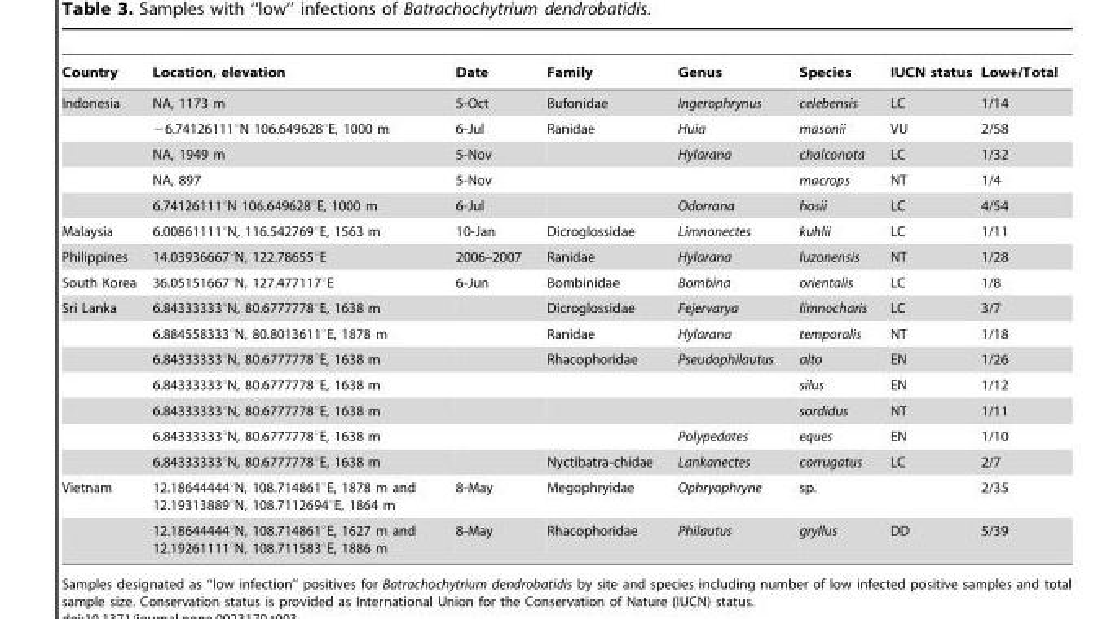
<table><thead><tr><td>Country</td><td>Location, elevation</td><td>Date</td><td>Family</td><td>Genus</td><td>Species</td><td>IUCN status</td><td>Low+/Total</td></tr></thead><tbody><tr><td rowspan="5">Indonesia</td><td>NA, 1173 m</td><td>5-Oct</td><td>Bufonidae</td><td>Ingerophrynus</td><td>celebensis</td><td>LC</td><td>1/14</td></tr><tr><td>−6.74126111°N 106.649628°E, 1000 m</td><td>6-Jul</td><td>Ranidae</td><td>Huia</td><td>masonii</td><td>VU</td><td>2/58</td></tr><tr><td>NA, 1949 m</td><td>5-Nov</td><td></td><td>Hylarana</td><td>chalconota</td><td>LC</td><td>1/32</td></tr><tr><td>NA, 897</td><td>5-Nov</td><td></td><td></td><td>macrops</td><td>NT</td><td>1/4</td></tr><tr><td>6.74126111°N 106.649628°E, 1000 m</td><td>6-Jul</td><td></td><td>Odorrana</td><td>hosii</td><td>LC</td><td>4/54</td></tr><tr><td>Malaysia</td><td>6.00861111°N, 116.542769°E, 1563 m</td><td>10-Jan</td><td>Dicroglossidae</td><td>Limnonectes</td><td>kuhlii</td><td>LC</td><td>1/11</td></tr><tr><td>Philippines</td><td>14.03936667°N, 122.78655°E</td><td>2006–2007</td><td>Ranidae</td><td>Hylarana</td><td>luzonensis</td><td>NT</td><td>1/28</td></tr><tr><td>South Korea</td><td>36.05151667°N, 127.477117°E</td><td>6-Jun</td><td>Bombinidae</td><td>Bombina</td><td>orientalis</td><td>LC</td><td>1/8</td></tr><tr><td rowspan="7">Sri Lanka</td><td>6.84333333°N, 80.6777778°E, 1638 m</td><td></td><td>Dicroglossidae</td><td>Fejervarya</td><td>limnocharis</td><td>LC</td><td>3/7</td></tr><tr><td>6.884558333°N, 80.8013611°E, 1878 m</td><td></td><td>Ranidae</td><td>Hylarana</td><td>temporalis</td><td>NT</td><td>1/18</td></tr><tr><td>6.84333333°N, 80.6777778°E, 1638 m</td><td></td><td>Rhacophoridae</td><td>Pseudophilautus</td><td>alto</td><td>EN</td><td>1/26</td></tr><tr><td>6.84333333°N, 80.6777778°E, 1638 m</td><td></td><td></td><td></td><td>silus</td><td>EN</td><td>1/12</td></tr><tr><td>6.84333333°N, 80.6777778°E, 1638 m</td><td></td><td></td><td></td><td>sordidus</td><td>NT</td><td>1/11</td></tr><tr><td>6.84333333°N, 80.6777778°E, 1638 m</td><td></td><td></td><td>Polypedates</td><td>eques</td><td>EN</td><td>1/10</td></tr><tr><td>6.84333333°N, 80.6777778°E, 1638 m</td><td></td><td>Nyctibatra-chidae</td><td>Lankanectes</td><td>corrugatus</td><td>LC</td><td>2/7</td></tr><tr><td rowspan="2">Vietnam</td><td>12.18644444°N, 108.714861°E, 1878 m and 12.19313889°N, 108.7112694°E, 1864 m</td><td>8-May</td><td>Megophryidae</td><td>Ophryophryne</td><td>sp.</td><td></td><td>2/35</td></tr><tr><td>12.18644444°N, 108.714861°E, 1627 m and 12.19261111°N, 108.711583°E, 1886 m</td><td>8-May</td><td>Rhacophoridae</td><td>Philautus</td><td>gryllus</td><td>DD</td><td>5/39</td></tr></tbody></table>